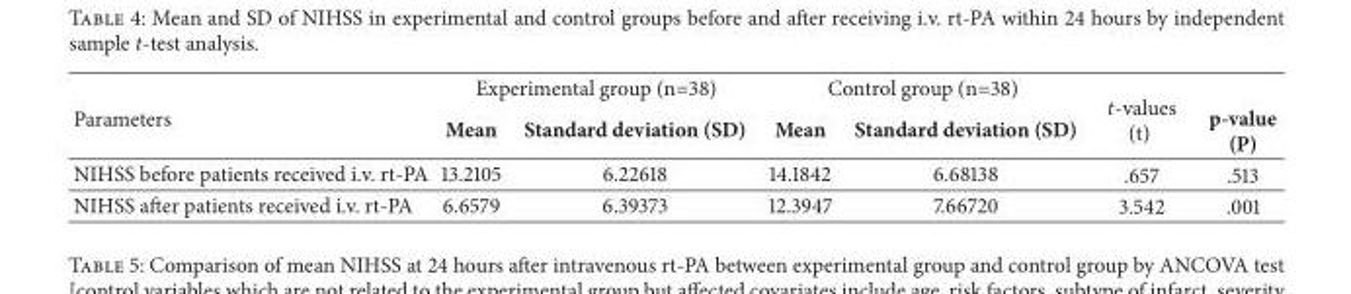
<table><thead><tr><td rowspan="2">Parameters</td><td colspan="2">Experimental group (n=38)</td><td colspan="2">Control group (n=38)</td><td rowspan="2">t-values (t)</td><td rowspan="2">p-value (P)</td></tr><tr><td>Mean</td><td>Standard deviation (SD)</td><td>Mean</td><td>Standard deviation (SD)</td></tr></thead><tbody><tr><td>NIHSS before patients received i.v. rt-PA</td><td>13.2105</td><td>6.22618</td><td>14.1842</td><td>6.68138</td><td>.657</td><td>.513</td></tr><tr><td>NIHSS after patients received i.v. rt-PA</td><td>6.6579</td><td>6.39373</td><td>12.3947</td><td>7.66720</td><td>3.542</td><td>.001</td></tr></tbody></table>